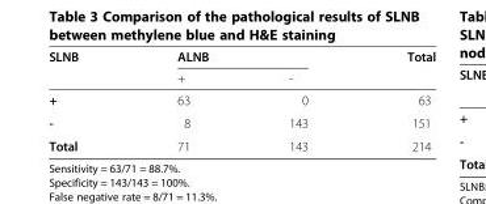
<table><thead><tr><td rowspan="2">SLNB</td><td colspan="2">ALNB</td><td rowspan="2">Total</td></tr><tr><td>+</td><td>-</td></tr></thead><tbody><tr><td>+</td><td>63</td><td>0</td><td>63</td></tr><tr><td>-</td><td>8</td><td>143</td><td>151</td></tr><tr><td>Total</td><td>71</td><td>143</td><td>214</td></tr></tbody></table>